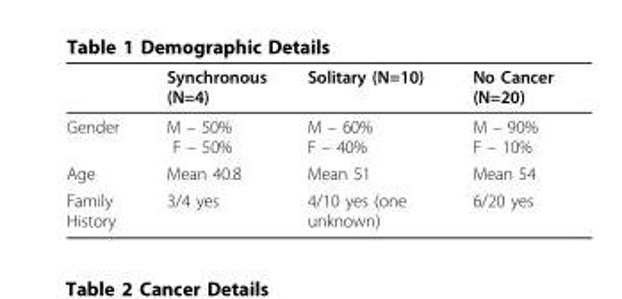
<table><thead><tr><td></td><td>Synchronous (N=4)</td><td>Solitary (N=10)</td><td>No Cancer (N=20)</td></tr></thead><tbody><tr><td>Gender</td><td>M – 50% F – 50%</td><td>M – 60% F – 40%</td><td>M – 90% F – 10%</td></tr><tr><td>Age</td><td>Mean 40.8</td><td>Mean 51</td><td>Mean 54</td></tr><tr><td>Family History</td><td>3/4 yes</td><td>4/10 yes (one unknown)</td><td>6/20 yes</td></tr></tbody></table>